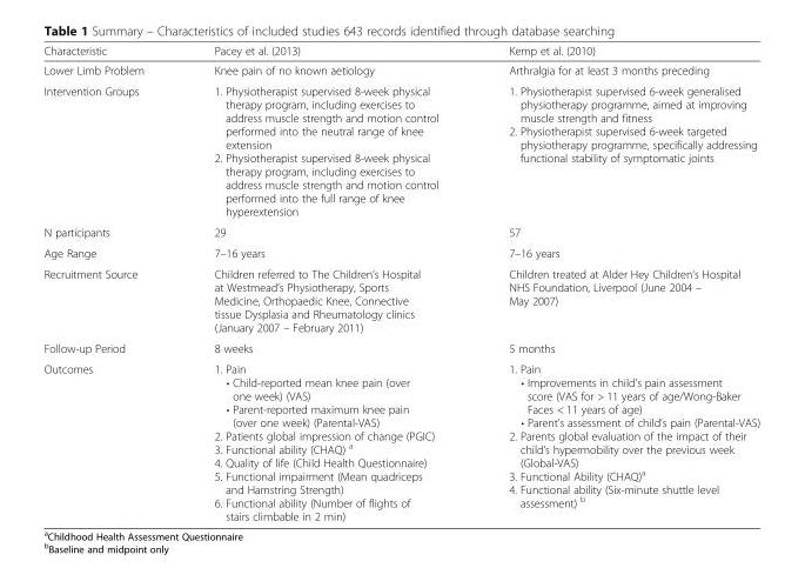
<table><thead><tr><td>Characteristic</td><td>Pacey et al. (2013)</td><td>Kemp et al. (2010)</td></tr></thead><tbody><tr><td>Lower Limb Problem</td><td>Knee pain of no known aetiology</td><td>Arthralgia for at least 3 months preceding</td></tr><tr><td>Intervention Groups</td><td>1. Physiotherapist supervised 8-week physical therapy program, including exercises to address muscle strength and motion control performed into the neutral range of knee extension 2. Physiotherapist supervised 8-week physical therapy program, including exercises to address muscle strength and motion control performed into the full range of knee hyperextension</td><td>1. Physiotherapist supervised 6-week generalised physiotherapy programme, aimed at improving muscle strength and fitness 2. Physiotherapist supervised 6-week targeted physiotherapy programme, specifically addressing functional stability of symptomatic joints</td></tr><tr><td>N participants</td><td>29</td><td>57</td></tr><tr><td>Age Range</td><td>7–16 years</td><td>7–16 years</td></tr><tr><td>Recruitment Source</td><td>Children referred to The Children’s Hospital at Westmead’s Physiotherapy, Sports Medicine, Orthopaedic Knee, Connective tissue Dysplasia and Rheumatology clinics (January 2007 – February 2011)</td><td>Children treated at Alder Hey Children’s Hospital NHS Foundation, Liverpool (June 2004 – May 2007)</td></tr><tr><td>Follow-up Period</td><td>8 weeks</td><td>5 months</td></tr><tr><td>Outcomes</td><td>1. Pain • Child-reported mean knee pain (over one week) (VAS) • Parent-reported maximum knee pain (over one week) (Parental-VAS) 2. Patients global impression of change (PGIC) 3. Functional ability (CHAQ) <sup>a</sup> 4. Quality of life (Child Health Questionnaire) 5. Functional impairment (Mean quadriceps and Hamstring Strength) 6. Functional ability (Number of flights of stairs climbable in 2 min)</td><td>1. Pain • Improvements in child’s pain assessment score (VAS for &gt; 11 years of age/Wong-Baker Faces &lt; 11 years of age) • Parent’s assessment of child’s pain (Parental-VAS) 2. Parents global evaluation of the impact of their child’s hypermobility over the previous week (Global-VAS) 3. Functional Ability (CHAQ)<sup>a</sup> 4. Functional ability (Six-minute shuttle level assessment) <sup>b</sup></td></tr></tbody></table>